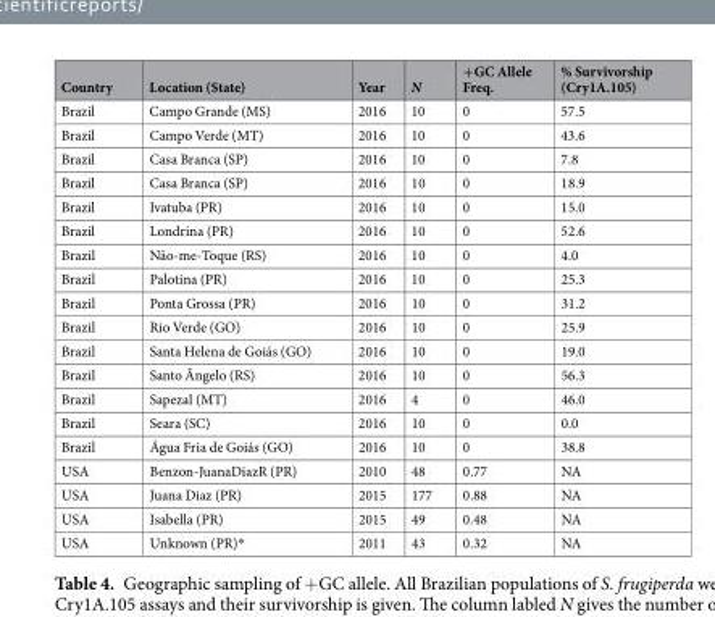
<table><thead><tr><td>Country</td><td>Location (State)</td><td>Year</td><td>N</td><td>+GC Allele Freq.</td><td>% Survivorship (Cry1A.105)</td></tr></thead><tbody><tr><td>Brazil</td><td>Campo Grande (MS)</td><td>2016</td><td>10</td><td>0</td><td>57.5</td></tr><tr><td>Brazil</td><td>Campo Verde (MT)</td><td>2016</td><td>10</td><td>0</td><td>43.6</td></tr><tr><td>Brazil</td><td>Casa Branca (SP)</td><td>2016</td><td>10</td><td>0</td><td>7.8</td></tr><tr><td>Brazil</td><td>Casa Branca (SP)</td><td>2016</td><td>10</td><td>0</td><td>18.9</td></tr><tr><td>Brazil</td><td>Ivatuba (PR)</td><td>2016</td><td>10</td><td>0</td><td>15.0</td></tr><tr><td>Brazil</td><td>Londrina (PR)</td><td>2016</td><td>10</td><td>0</td><td>52.6</td></tr><tr><td>Brazil</td><td>Não-me-Toque (RS)</td><td>2016</td><td>10</td><td>0</td><td>4.0</td></tr><tr><td>Brazil</td><td>Palotina (PR)</td><td>2016</td><td>10</td><td>0</td><td>25.3</td></tr><tr><td>Brazil</td><td>Ponta Grossa (PR)</td><td>2016</td><td>10</td><td>0</td><td>31.2</td></tr><tr><td>Brazil</td><td>Rio Verde (GO)</td><td>2016</td><td>10</td><td>0</td><td>25.9</td></tr><tr><td>Brazil</td><td>Santa Helena de Goiás (GO)</td><td>2016</td><td>10</td><td>0</td><td>19.0</td></tr><tr><td>Brazil</td><td>Santo Ângelo (RS)</td><td>2016</td><td>10</td><td>0</td><td>56.3</td></tr><tr><td>Brazil</td><td>Sapezal (MT)</td><td>2016</td><td>4</td><td>0</td><td>46.0</td></tr><tr><td>Brazil</td><td>Seara (SC)</td><td>2016</td><td>10</td><td>0</td><td>0.0</td></tr><tr><td>Brazil</td><td>Água Fria de Goiás (GO)</td><td>2016</td><td>10</td><td>0</td><td>38.8</td></tr><tr><td>USA</td><td>Benzon-JuanaDiazR (PR)</td><td>2010</td><td>48</td><td>0.77</td><td>NA</td></tr><tr><td>USA</td><td>Juana Diaz (PR)</td><td>2015</td><td>177</td><td>0.88</td><td>NA</td></tr><tr><td>USA</td><td>Isabella (PR)</td><td>2015</td><td>49</td><td>0.48</td><td>NA</td></tr><tr><td>USA</td><td>Unknown (PR)*</td><td>2011</td><td>43</td><td>0.32</td><td>NA</td></tr></tbody></table>